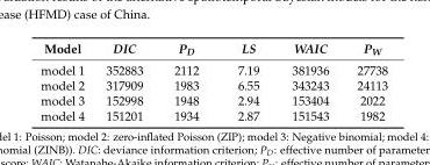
<table><thead><tr><td>Model</td><td>DIC</td><td>P<sub>D</sub></td><td>LS</td><td>WAIC</td><td>P<sub>W</sub></td></tr></thead><tbody><tr><td>model 1</td><td>352883</td><td>2112</td><td>7.19</td><td>381936</td><td>27738</td></tr><tr><td>model 2</td><td>317909</td><td>1983</td><td>6.55</td><td>343243</td><td>24113</td></tr><tr><td>model 3</td><td>152998</td><td>1948</td><td>2.94</td><td>153404</td><td>2022</td></tr><tr><td>model 4</td><td>151201</td><td>1934</td><td>2.87</td><td>151543</td><td>1982</td></tr></tbody></table>